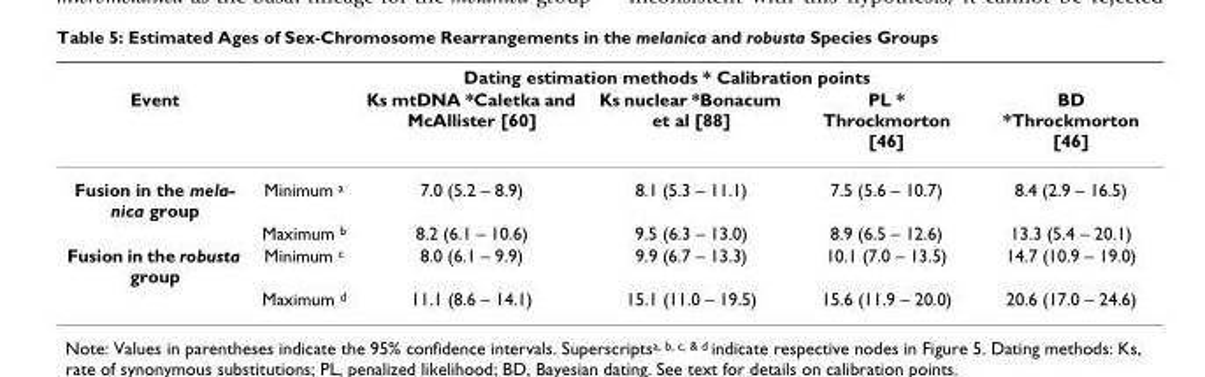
<table><thead><tr><td rowspan="2">Event</td><td rowspan="2"></td><td colspan="3">Dating estimation methods * Calibration points</td><td rowspan="2">BD *Throckmorton [46]</td></tr><tr><td>Ks mtDNA *Caletka and McAllister [60]</td><td>Ks nuclear *Bonacum et al [88]</td><td>PL * Throckmorton [46]</td></tr></thead><tbody><tr><td rowspan="2">Fusion in the mela- nica group</td><td>Minimum <sup>a</sup></td><td>7.0 (5.2 – 8.9)</td><td>8.1 (5.3 – 11.1)</td><td>7.5 (5.6 – 10.7)</td><td>8.4 (2.9 – 16.5)</td></tr><tr><td>Maximum <sup>b</sup></td><td>8.2 (6.1 – 10.6)</td><td>9.5 (6.3 – 13.0)</td><td>8.9 (6.5 – 12.6)</td><td>13.3 (5.4 – 20.1)</td></tr><tr><td rowspan="2">Fusion in the robusta group</td><td>Minimum <sup>c</sup></td><td>8.0 (6.1 – 9.9)</td><td>9.9 (6.7 – 13.3)</td><td>10.1 (7.0 – 13.5)</td><td>14.7 (10.9 – 19.0)</td></tr><tr><td>Maximum <sup>d</sup></td><td>11.1 (8.6 – 14.1)</td><td>15.1 (11.0 – 19.5)</td><td>15.6 (11.9 – 20.0)</td><td>20.6 (17.0 – 24.6)</td></tr></tbody></table>